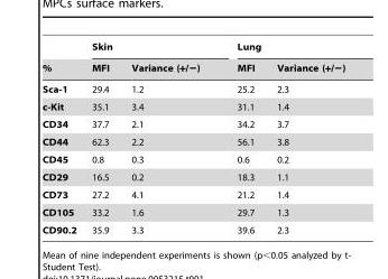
<table><thead><tr><td rowspan="2">%</td><td colspan="2">Skin</td><td colspan="2">Lung</td></tr><tr><td>MFI</td><td>Variance (+/−)</td><td>MFI</td><td>Variance (+/−)</td></tr></thead><tbody><tr><td>Sca-1</td><td>29.4</td><td>1.2</td><td>25.2</td><td>2.3</td></tr><tr><td>c-Kit</td><td>35.1</td><td>3.4</td><td>31.1</td><td>1.4</td></tr><tr><td>CD34</td><td>37.7</td><td>2.1</td><td>34.2</td><td>3.7</td></tr><tr><td>CD44</td><td>62.3</td><td>2.2</td><td>56.1</td><td>3.8</td></tr><tr><td>CD45</td><td>0.8</td><td>0.3</td><td>0.6</td><td>0.2</td></tr><tr><td>CD29</td><td>16.5</td><td>0.2</td><td>18.3</td><td>1.1</td></tr><tr><td>CD73</td><td>27.2</td><td>4.1</td><td>21.2</td><td>1.4</td></tr><tr><td>CD105</td><td>33.2</td><td>1.6</td><td>29.7</td><td>1.3</td></tr><tr><td>CD90.2</td><td>35.9</td><td>3.3</td><td>39.6</td><td>2.3</td></tr></tbody></table>